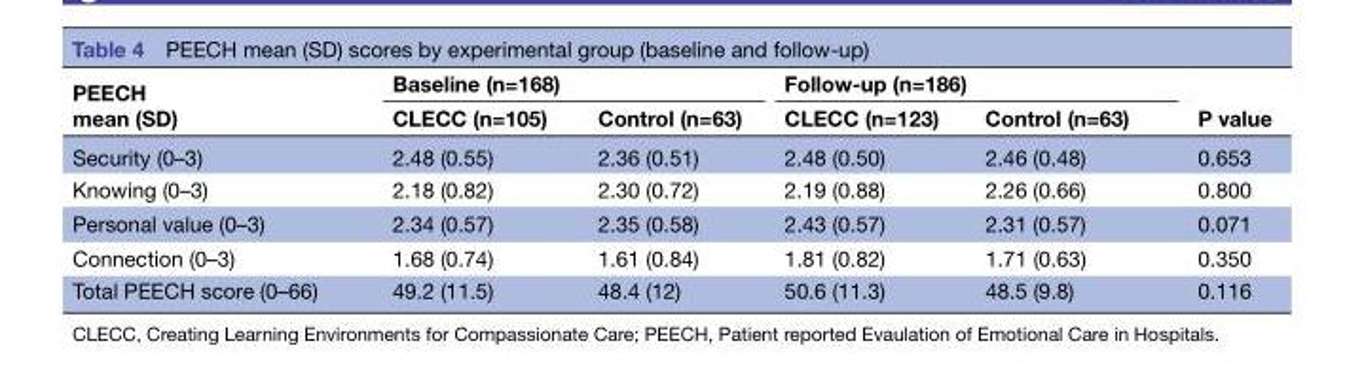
<table><thead><tr><td rowspan="2">PEECH mean (SD)</td><td colspan="2">Baseline (n=168)</td><td colspan="2">Follow-up (n=186)</td><td rowspan="2">P value</td></tr><tr><td>CLECC (n=105)</td><td>Control (n=63)</td><td>CLECC (n=123)</td><td>Control (n=63)</td></tr></thead><tbody><tr><td>Security (0–3)</td><td>2.48 (0.55)</td><td>2.36 (0.51)</td><td>2.48 (0.50)</td><td>2.46 (0.48)</td><td>0.653</td></tr><tr><td>Knowing (0–3)</td><td>2.18 (0.82)</td><td>2.30 (0.72)</td><td>2.19 (0.88)</td><td>2.26 (0.66)</td><td>0.800</td></tr><tr><td>Personal value (0–3)</td><td>2.34 (0.57)</td><td>2.35 (0.58)</td><td>2.43 (0.57)</td><td>2.31 (0.57)</td><td>0.071</td></tr><tr><td>Connection (0–3)</td><td>1.68 (0.74)</td><td>1.61 (0.84)</td><td>1.81 (0.82)</td><td>1.71 (0.63)</td><td>0.350</td></tr><tr><td>Total PEECH score (0–66)</td><td>49.2 (11.5)</td><td>48.4 (12)</td><td>50.6 (11.3)</td><td>48.5 (9.8)</td><td>0.116</td></tr></tbody></table>